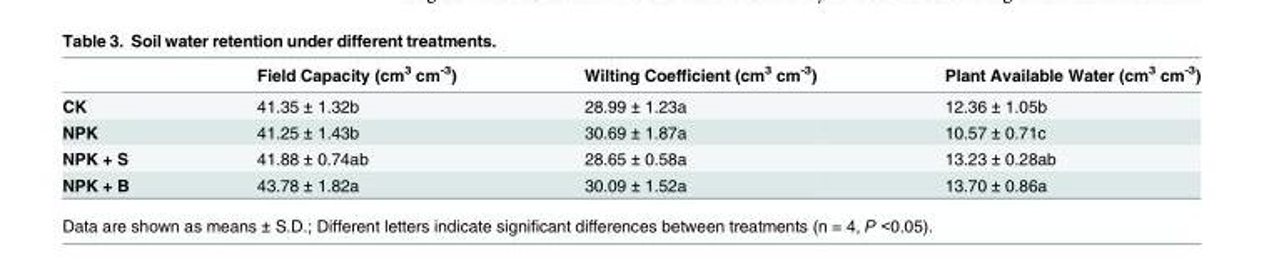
<table><thead><tr><td></td><td>Field Capacity (cm<sup>3</sup> cm<sup>-3</sup>)</td><td>Wilting Coefficient (cm<sup>3</sup> cm<sup>-3</sup>)</td><td>Plant Available Water (cm<sup>3</sup> cm<sup>-3</sup>)</td></tr></thead><tbody><tr><td>CK</td><td>41.35 ± 1.32b</td><td>28.99 ± 1.23a</td><td>12.36 ± 1.05b</td></tr><tr><td>NPK</td><td>41.25 ± 1.43b</td><td>30.69 ± 1.87a</td><td>10.57 ± 0.71c</td></tr><tr><td>NPK + S</td><td>41.88 ± 0.74ab</td><td>28.65 ± 0.58a</td><td>13.23 ± 0.28ab</td></tr><tr><td>NPK + B</td><td>43.78 ± 1.82a</td><td>30.09 ± 1.52a</td><td>13.70 ± 0.86a</td></tr></tbody></table>